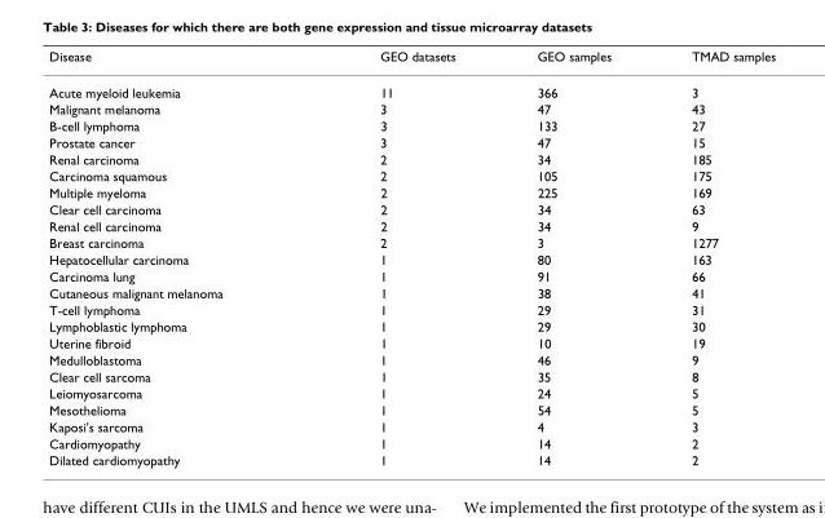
<table><thead><tr><td>Disease</td><td>GEO datasets</td><td>GEO samples</td><td>TMAD samples</td></tr></thead><tbody><tr><td>Acute myeloid leukemia</td><td>11</td><td>366</td><td>3</td></tr><tr><td>Malignant melanoma</td><td>3</td><td>47</td><td>43</td></tr><tr><td>B-cell lymphoma</td><td>3</td><td>133</td><td>27</td></tr><tr><td>Prostate cancer</td><td>3</td><td>47</td><td>15</td></tr><tr><td>Renal carcinoma</td><td>2</td><td>34</td><td>185</td></tr><tr><td>Carcinoma squamous</td><td>2</td><td>105</td><td>175</td></tr><tr><td>Multiple myeloma</td><td>2</td><td>225</td><td>169</td></tr><tr><td>Clear cell carcinoma</td><td>2</td><td>34</td><td>63</td></tr><tr><td>Renal cell carcinoma</td><td>2</td><td>34</td><td>9</td></tr><tr><td>Breast carcinoma</td><td>2</td><td>3</td><td>1277</td></tr><tr><td>Hepatocellular carcinoma</td><td>1</td><td>80</td><td>163</td></tr><tr><td>Carcinoma lung</td><td>1</td><td>91</td><td>66</td></tr><tr><td>Cutaneous malignant melanoma</td><td>1</td><td>38</td><td>41</td></tr><tr><td>T-cell lymphoma</td><td>1</td><td>29</td><td>31</td></tr><tr><td>Lymphoblastic lymphoma</td><td>1</td><td>29</td><td>30</td></tr><tr><td>Uterine fibroid</td><td>1</td><td>10</td><td>19</td></tr><tr><td>Medulloblastoma</td><td>1</td><td>46</td><td>9</td></tr><tr><td>Clear cell sarcoma</td><td>1</td><td>35</td><td>8</td></tr><tr><td>Leiomyosarcoma</td><td>1</td><td>24</td><td>5</td></tr><tr><td>Mesothelioma</td><td>1</td><td>54</td><td>5</td></tr><tr><td>Kaposi&#x27;s sarcoma</td><td>1</td><td>4</td><td>3</td></tr><tr><td>Cardiomyopathy</td><td>1</td><td>14</td><td>2</td></tr><tr><td>Dilated cardiomyopathy</td><td>1</td><td>14</td><td>2</td></tr></tbody></table>